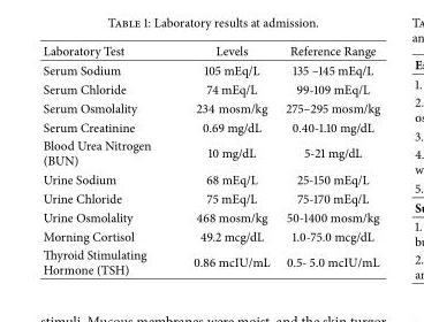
<table><thead><tr><td>Laboratory Test</td><td>Levels</td><td>Reference Range</td></tr></thead><tbody><tr><td>Serum Sodium</td><td>105 mEq/L</td><td>135 –145 mEq/L</td></tr><tr><td>Serum Chloride</td><td>74 mEq/L</td><td>99-109 mEq/L</td></tr><tr><td>Serum Osmolality</td><td>234 mosm/kg</td><td>275–295 mosm/kg</td></tr><tr><td>Serum Creatinine</td><td>0.69 mg/dL</td><td>0.40-1.10 mg/dL</td></tr><tr><td>Blood Urea Nitrogen (BUN)</td><td>10 mg/dL</td><td>5-21 mg/dL</td></tr><tr><td>Urine Sodium</td><td>68 mEq/L</td><td>25-150 mEq/L</td></tr><tr><td>Urine Chloride</td><td>75 mEq/L</td><td>75-170 mEq/L</td></tr><tr><td>Urine Osmolality</td><td>468 mosm/kg</td><td>50-1400 mosm/kg</td></tr><tr><td>Morning Cortisol</td><td>49.2 mcg/dL</td><td>1.0-75.0 mcg/dL</td></tr><tr><td>Thyroid Stimulating Hormone (TSH)</td><td>0.86 mcIU/mL</td><td>0.5- 5.0 mcIU/mL</td></tr></tbody></table>